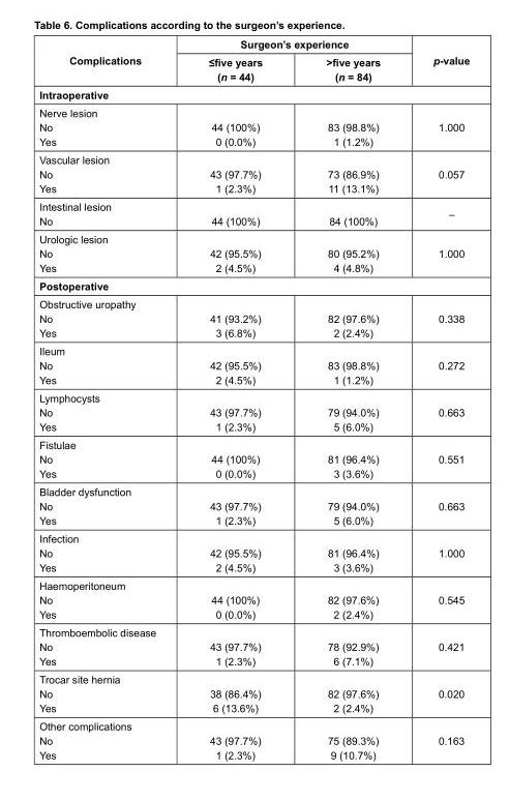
<table><thead><tr><td rowspan="2">Complications</td><td colspan="2">Surgeon’s experience</td><td rowspan="2">p-value</td></tr><tr><td>≤five years (n = 44)</td><td>&gt;five years (n = 84)</td></tr></thead><tbody><tr><td colspan="4">Intraoperative</td></tr><tr><td>Nerve lesion No Yes</td><td>44 (100%) 0 (0.0%)</td><td>83 (98.8%) 1 (1.2%)</td><td>1.000</td></tr><tr><td>Vascular lesion No Yes</td><td>43 (97.7%) 1 (2.3%)</td><td>73 (86.9%) 11 (13.1%)</td><td>0.057</td></tr><tr><td>Intestinal lesion No</td><td>44 (100%)</td><td>84 (100%)</td><td>–</td></tr><tr><td>Urologic lesion No Yes</td><td>42 (95.5%) 2 (4.5%)</td><td>80 (95.2%) 4 (4.8%)</td><td>1.000</td></tr><tr><td colspan="4">Postoperative</td></tr><tr><td>Obstructive uropathy No Yes</td><td>41 (93.2%) 3 (6.8%)</td><td>82 (97.6%) 2 (2.4%)</td><td>0.338</td></tr><tr><td>Ileum No Yes</td><td>42 (95.5%) 2 (4.5%)</td><td>83 (98.8%) 1 (1.2%)</td><td>0.272</td></tr><tr><td>Lymphocysts No Yes</td><td>43 (97.7%) 1 (2.3%)</td><td>79 (94.0%) 5 (6.0%)</td><td>0.663</td></tr><tr><td>Fistulae No Yes</td><td>44 (100%) 0 (0.0%)</td><td>81 (96.4%) 3 (3.6%)</td><td>0.551</td></tr><tr><td>Bladder dysfunction No Yes</td><td>43 (97.7%) 1 (2.3%)</td><td>79 (94.0%) 5 (6.0%)</td><td>0.663</td></tr><tr><td>Infection No Yes</td><td>42 (95.5%) 2 (4.5%)</td><td>81 (96.4%) 3 (3.6%)</td><td>1.000</td></tr><tr><td>Haemoperitoneum No Yes</td><td>44 (100%) 0 (0.0%)</td><td>82 (97.6%) 2 (2.4%)</td><td>0.545</td></tr><tr><td>Thromboembolic disease No Yes</td><td>43 (97.7%) 1 (2.3%)</td><td>78 (92.9%) 6 (7.1%)</td><td>0.421</td></tr><tr><td>Trocar site hernia No Yes</td><td>38 (86.4%) 6 (13.6%)</td><td>82 (97.6%) 2 (2.4%)</td><td>0.020</td></tr><tr><td>Other complications No Yes</td><td>43 (97.7%) 1 (2.3%)</td><td>75 (89.3%) 9 (10.7%)</td><td>0.163</td></tr></tbody></table>